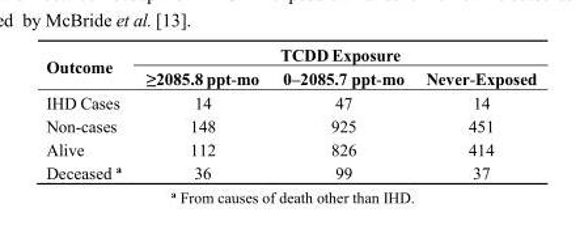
<table><thead><tr><td rowspan="2">Outcome</td><td colspan="3">TCDD Exposure</td></tr><tr><td>≥2085.8 ppt-mo</td><td>0–2085.7 ppt-mo</td><td>Never-Exposed</td></tr></thead><tbody><tr><td>IHD Cases</td><td>14</td><td>47</td><td>14</td></tr><tr><td>Non-cases</td><td>148</td><td>925</td><td>451</td></tr><tr><td>Alive</td><td>112</td><td>826</td><td>414</td></tr><tr><td>Deceased <sup>a</sup></td><td>36</td><td>99</td><td>37</td></tr></tbody></table>